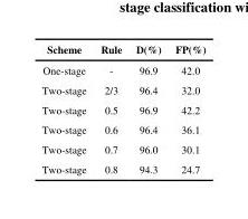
<table><thead><tr><td>Scheme</td><td>Rule</td><td>D(%)</td><td>FP(%)</td></tr></thead><tbody><tr><td>One-stage</td><td>-</td><td>96.9</td><td>42.0</td></tr><tr><td>Two-stage</td><td>2/3</td><td>96.4</td><td>32.0</td></tr><tr><td>Two-stage</td><td>0.5</td><td>96.9</td><td>42.2</td></tr><tr><td>Two-stage</td><td>0.6</td><td>96.4</td><td>36.1</td></tr><tr><td>Two-stage</td><td>0.7</td><td>96.0</td><td>30.1</td></tr><tr><td>Two-stage</td><td>0.8</td><td>94.3</td><td>24.7</td></tr></tbody></table>